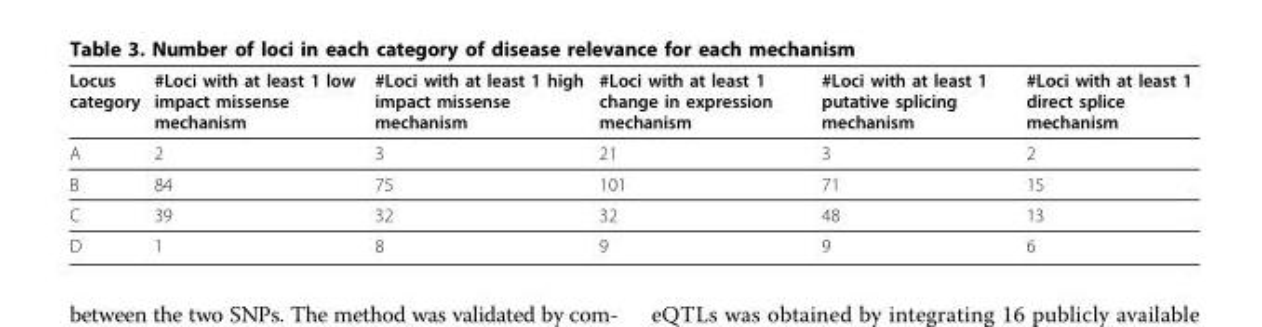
<table><thead><tr><td>Locus category</td><td>#Loci with at least 1 low impact missense mechanism</td><td>#Loci with at least 1 high impact missense mechanism</td><td>#Loci with at least 1 change in expression mechanism</td><td>#Loci with at least 1 putative splicing mechanism</td><td>#Loci with at least 1 direct splice mechanism</td></tr></thead><tbody><tr><td>A</td><td>2</td><td>3</td><td>21</td><td>3</td><td>2</td></tr><tr><td>B</td><td>84</td><td>75</td><td>101</td><td>71</td><td>15</td></tr><tr><td>C</td><td>39</td><td>32</td><td>32</td><td>48</td><td>13</td></tr><tr><td>D</td><td>1</td><td>8</td><td>9</td><td>9</td><td>6</td></tr></tbody></table>